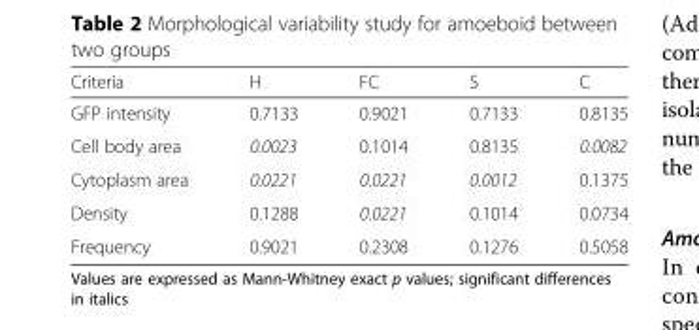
<table><thead><tr><td>Criteria</td><td>H</td><td>FC</td><td>S</td><td>C</td></tr></thead><tbody><tr><td>GFP intensity</td><td>0.7133</td><td>0.9021</td><td>0.7133</td><td>0.8135</td></tr><tr><td>Cell body area</td><td>0.0023</td><td>0.1014</td><td>0.8135</td><td>0.0082</td></tr><tr><td>Cytoplasm area</td><td>0.0221</td><td>0.0221</td><td>0.0012</td><td>0.1375</td></tr><tr><td>Density</td><td>0.1288</td><td>0.0221</td><td>0.1014</td><td>0.0734</td></tr><tr><td>Frequency</td><td>0.9021</td><td>0.2308</td><td>0.1276</td><td>0.5058</td></tr></tbody></table>